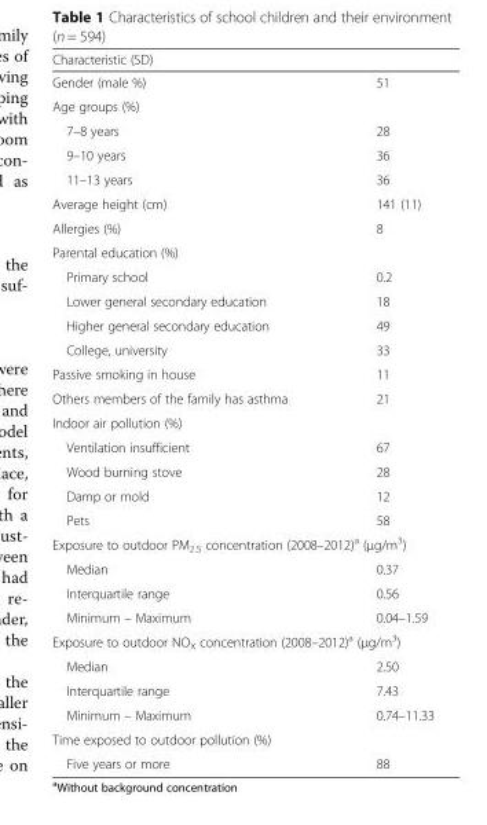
<table><thead><tr><td>Characteristic (SD)</td><td></td></tr></thead><tbody><tr><td>Gender (male %)</td><td>51</td></tr><tr><td colspan="2">Age groups (%)</td></tr><tr><td>7–8 years</td><td>28</td></tr><tr><td>9–10 years</td><td>36</td></tr><tr><td>11–13 years</td><td>36</td></tr><tr><td>Average height (cm)</td><td>141 (11)</td></tr><tr><td>Allergies (%)</td><td>8</td></tr><tr><td colspan="2">Parental education (%)</td></tr><tr><td>Primary school</td><td>0.2</td></tr><tr><td>Lower general secondary education</td><td>18</td></tr><tr><td>Higher general secondary education</td><td>49</td></tr><tr><td>College, university</td><td>33</td></tr><tr><td>Passive smoking in house</td><td>11</td></tr><tr><td>Others members of the family has asthma</td><td>21</td></tr><tr><td colspan="2">Indoor air pollution (%)</td></tr><tr><td>Ventilation insufficient</td><td>67</td></tr><tr><td>Wood burning stove</td><td>28</td></tr><tr><td>Damp or mold</td><td>12</td></tr><tr><td>Pets</td><td>58</td></tr><tr><td colspan="2">Exposure to outdoor PM<sub>2.5</sub> concentration (2008–2012)<sup>a</sup> (μg/m<sup>3</sup>)</td></tr><tr><td>Median</td><td>0.37</td></tr><tr><td>Interquartile range</td><td>0.56</td></tr><tr><td>Minimum – Maximum</td><td>0.04–1.59</td></tr><tr><td colspan="2">Exposure to outdoor NO<sub>X</sub> concentration (2008–2012)<sup>a</sup> (μg/m<sup>3</sup>)</td></tr><tr><td>Median</td><td>2.50</td></tr><tr><td>Interquartile range</td><td>7.43</td></tr><tr><td>Minimum – Maximum</td><td>0.74–11.33</td></tr><tr><td colspan="2">Time exposed to outdoor pollution (%)</td></tr><tr><td>Five years or more</td><td>88</td></tr></tbody></table>